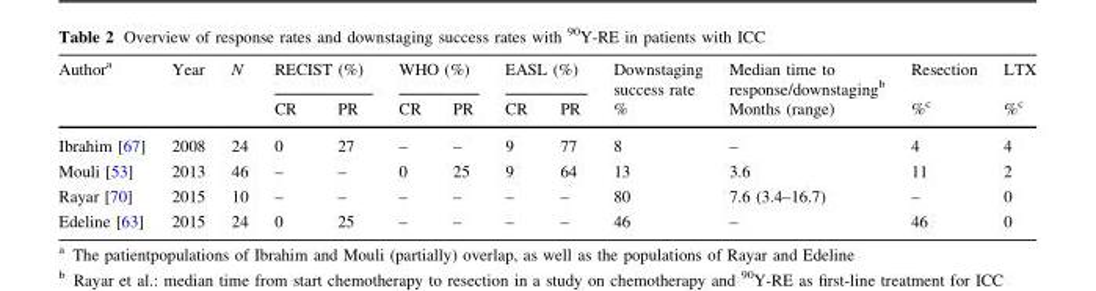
<table><thead><tr><td rowspan="2">Author<sup>a</sup></td><td rowspan="2">Year</td><td rowspan="2">N</td><td colspan="2">RECIST (%)</td><td colspan="2">WHO (%)</td><td colspan="2">EASL (%)</td><td rowspan="2">Downstaging success rate %</td><td rowspan="2">Median time to response/downstaging<sup>b</sup> Months (range)</td><td rowspan="2">Resection %<sup>c</sup></td><td rowspan="2">LTX %<sup>c</sup></td></tr><tr><td>CR</td><td>PR</td><td>CR</td><td>PR</td><td>CR</td><td>PR</td></tr></thead><tbody><tr><td>Ibrahim [67]</td><td>2008</td><td>24</td><td>0</td><td>27</td><td>–</td><td>–</td><td>9</td><td>77</td><td>8</td><td>–</td><td>4</td><td>4</td></tr><tr><td>Mouli [53]</td><td>2013</td><td>46</td><td>–</td><td>–</td><td>0</td><td>25</td><td>9</td><td>64</td><td>13</td><td>3.6</td><td>11</td><td>2</td></tr><tr><td>Rayar [70]</td><td>2015</td><td>10</td><td>–</td><td>–</td><td>–</td><td>–</td><td>–</td><td>–</td><td>80</td><td>7.6 (3.4–16.7)</td><td>–</td><td>0</td></tr><tr><td>Edeline [63]</td><td>2015</td><td>24</td><td>0</td><td>25</td><td>–</td><td>–</td><td>–</td><td>–</td><td>46</td><td>–</td><td>46</td><td>0</td></tr></tbody></table>